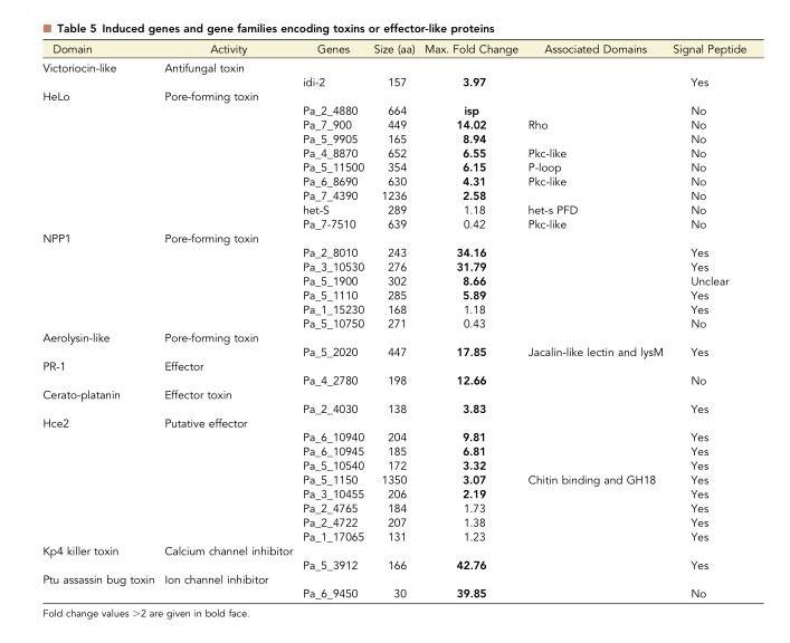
<table><thead><tr><td>Domain</td><td>Activity</td><td>Genes</td><td>Size (aa)</td><td>Max. Fold Change</td><td>Associated Domains</td><td>Signal Peptide</td></tr></thead><tbody><tr><td rowspan="2">Victoriocin-like</td><td>Antifungal toxin</td><td></td><td></td><td></td><td></td><td></td></tr><tr><td></td><td>idi-2</td><td>157</td><td>3.97</td><td></td><td>Yes</td></tr><tr><td rowspan="10">HeLo</td><td>Pore-forming toxin</td><td></td><td></td><td></td><td></td><td></td></tr><tr><td></td><td>Pa_2_4880</td><td>664</td><td>isp</td><td></td><td>No</td></tr><tr><td></td><td>Pa_7_900</td><td>449</td><td>14.02</td><td>Rho</td><td>No</td></tr><tr><td></td><td>Pa_5_9905</td><td>165</td><td>8.94</td><td></td><td>No</td></tr><tr><td></td><td>Pa_4_8870</td><td>652</td><td>6.55</td><td>Pkc-like</td><td>No</td></tr><tr><td></td><td>Pa_5_11500</td><td>354</td><td>6.15</td><td>P-loop</td><td>No</td></tr><tr><td></td><td>Pa_6_8690</td><td>630</td><td>4.31</td><td>Pkc-like</td><td>No</td></tr><tr><td></td><td>Pa_7_4390</td><td>1236</td><td>2.58</td><td></td><td>No</td></tr><tr><td></td><td>het-S</td><td>289</td><td>1.18</td><td>het-s PFD</td><td>No</td></tr><tr><td></td><td>Pa_7-7510</td><td>639</td><td>0.42</td><td>Pkc-like</td><td>No</td></tr><tr><td rowspan="7">NPP1</td><td>Pore-forming toxin</td><td></td><td></td><td></td><td></td><td></td></tr><tr><td></td><td>Pa_2_8010</td><td>243</td><td>34.16</td><td></td><td>Yes</td></tr><tr><td></td><td>Pa_3_10530</td><td>276</td><td>31.79</td><td></td><td>Yes</td></tr><tr><td></td><td>Pa_5_1900</td><td>302</td><td>8.66</td><td></td><td>Unclear</td></tr><tr><td></td><td>Pa_5_1110</td><td>285</td><td>5.89</td><td></td><td>Yes</td></tr><tr><td></td><td>Pa_1_15230</td><td>168</td><td>1.18</td><td></td><td>Yes</td></tr><tr><td></td><td>Pa_5_10750</td><td>271</td><td>0.43</td><td></td><td>No</td></tr><tr><td rowspan="2">Aerolysin-like</td><td>Pore-forming toxin</td><td></td><td></td><td></td><td></td><td></td></tr><tr><td></td><td>Pa_5_2020</td><td>447</td><td>17.85</td><td>Jacalin-like lectin and lysM</td><td>Yes</td></tr><tr><td rowspan="2">PR-1</td><td>Effector</td><td></td><td></td><td></td><td></td><td></td></tr><tr><td></td><td>Pa_4_2780</td><td>198</td><td>12.66</td><td></td><td>No</td></tr><tr><td rowspan="2">Cerato-platanin</td><td>Effector toxin</td><td></td><td></td><td></td><td></td><td></td></tr><tr><td></td><td>Pa_2_4030</td><td>138</td><td>3.83</td><td></td><td>Yes</td></tr><tr><td rowspan="9">Hce2</td><td>Putative effector</td><td></td><td></td><td></td><td></td><td></td></tr><tr><td></td><td>Pa_6_10940</td><td>204</td><td>9.81</td><td></td><td>Yes</td></tr><tr><td></td><td>Pa_6_10945</td><td>185</td><td>6.81</td><td></td><td>Yes</td></tr><tr><td></td><td>Pa_5_10540</td><td>172</td><td>3.32</td><td></td><td>Yes</td></tr><tr><td></td><td>Pa_5_1150</td><td>1350</td><td>3.07</td><td>Chitin binding and GH18</td><td>Yes</td></tr><tr><td></td><td>Pa_3_10455</td><td>206</td><td>2.19</td><td></td><td>Yes</td></tr><tr><td></td><td>Pa_2_4765</td><td>184</td><td>1.73</td><td></td><td>Yes</td></tr><tr><td></td><td>Pa_2_4722</td><td>207</td><td>1.38</td><td></td><td>Yes</td></tr><tr><td></td><td>Pa_1_17065</td><td>131</td><td>1.23</td><td></td><td>Yes</td></tr><tr><td rowspan="2">Kp4 killer toxin</td><td>Calcium channel inhibitor</td><td></td><td></td><td></td><td></td><td></td></tr><tr><td></td><td>Pa_5_3912</td><td>166</td><td>42.76</td><td></td><td>Yes</td></tr><tr><td rowspan="2">Ptu assassin bug toxin</td><td>Ion channel inhibitor</td><td></td><td></td><td></td><td></td><td></td></tr><tr><td></td><td>Pa_6_9450</td><td>30</td><td>39.85</td><td></td><td>No</td></tr></tbody></table>